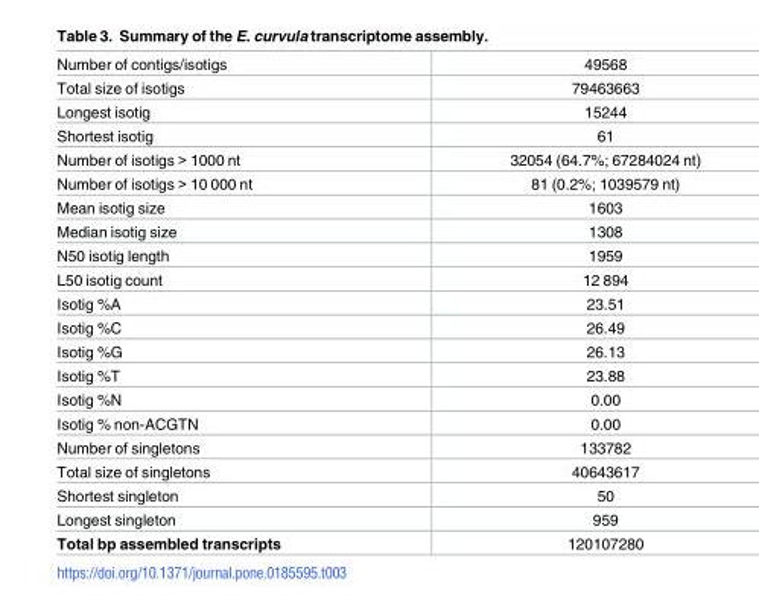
<table><tbody><tr><td>Number of contigs/isotigs</td><td>49568</td></tr><tr><td>Total size of isotigs</td><td>79463663</td></tr><tr><td>Longest isotig</td><td>15244</td></tr><tr><td>Shortest isotig</td><td>61</td></tr><tr><td>Number of isotigs &gt; 1000 nt</td><td>32054 (64.7%; 67284024 nt)</td></tr><tr><td>Number of isotigs &gt; 10 000 nt</td><td>81 (0.2%; 1039579 nt)</td></tr><tr><td>Mean isotig size</td><td>1603</td></tr><tr><td>Median isotig size</td><td>1308</td></tr><tr><td>N50 isotig length</td><td>1959</td></tr><tr><td>L50 isotig count</td><td>12 894</td></tr><tr><td>Isotig %A</td><td>23.51</td></tr><tr><td>Isotig %C</td><td>26.49</td></tr><tr><td>Isotig %G</td><td>26.13</td></tr><tr><td>Isotig %T</td><td>23.88</td></tr><tr><td>Isotig %N</td><td>0.00</td></tr><tr><td>Isotig % non-ACGTN</td><td>0.00</td></tr><tr><td>Number of singletons</td><td>133782</td></tr><tr><td>Total size of singletons</td><td>40643617</td></tr><tr><td>Shortest singleton</td><td>50</td></tr><tr><td>Longest singleton</td><td>959</td></tr><tr><td>Total bp assembled transcripts</td><td>120107280</td></tr></tbody></table>